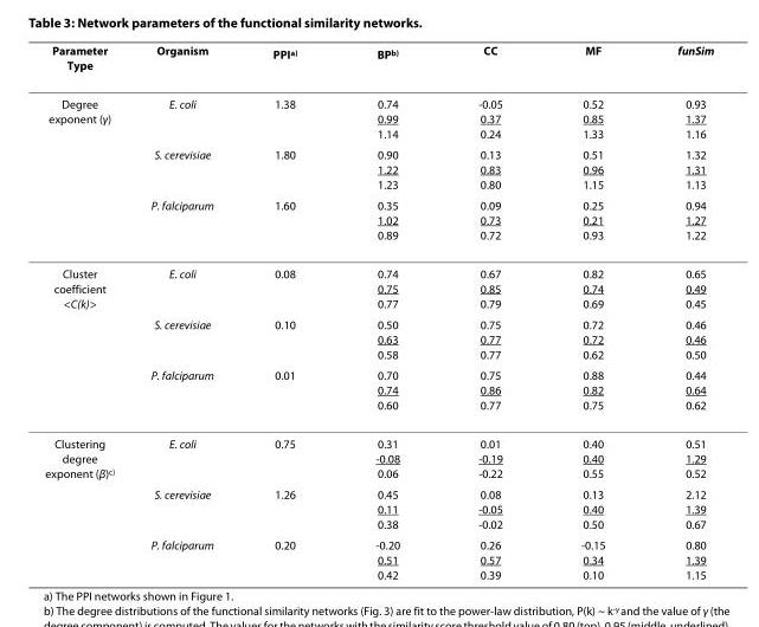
<table><thead><tr><td>Parameter Type</td><td>Organism</td><td>PPI<sup>a)</sup></td><td>BP<sup>b)</sup></td><td>CC</td><td>MF</td><td>funSim</td></tr></thead><tbody><tr><td rowspan="3">Degree exponent (γ)</td><td>E. coli</td><td>1.38</td><td>0.74 0.99 1.14</td><td>-0.05 0.37 0.24</td><td>0.52 0.85 1.33</td><td>0.93 1.37 1.16</td></tr><tr><td>S. cerevisiae</td><td>1.80</td><td>0.90 1.22 1.23</td><td>0.13 0.83 0.80</td><td>0.51 0.96 1.15</td><td>1.32 1.31 1.13</td></tr><tr><td>P. falciparum</td><td>1.60</td><td>0.35 1.02 0.89</td><td>0.09 0.73 0.72</td><td>0.25 0.21 0.93</td><td>0.94 1.27 1.22</td></tr><tr><td rowspan="3">Cluster coefficient &lt;C(k)&gt;</td><td>E. coli</td><td>0.08</td><td>0.74 0.75 0.77</td><td>0.67 0.85 0.79</td><td>0.82 0.74 0.69</td><td>0.65 0.49 0.45</td></tr><tr><td>S. cerevisiae</td><td>0.10</td><td>0.50 0.63 0.58</td><td>0.75 0.77 0.77</td><td>0.72 0.72 0.62</td><td>0.46 0.46 0.50</td></tr><tr><td>P. falciparum</td><td>0.01</td><td>0.70 0.74 0.60</td><td>0.75 0.86 0.77</td><td>0.88 0.82 0.75</td><td>0.44 0.64 0.62</td></tr><tr><td rowspan="3">Clustering degree exponent (β)<sup>c)</sup></td><td>E. coli</td><td>0.75</td><td>0.31 -0.08 0.06</td><td>0.01 -0.19 -0.22</td><td>0.40 0.40 0.55</td><td>0.51 1.29 0.52</td></tr><tr><td>S. cerevisiae</td><td>1.26</td><td>0.45 0.11 0.38</td><td>0.08 -0.05 -0.02</td><td>0.13 0.40 0.50</td><td>2.12 1.39 0.67</td></tr><tr><td>P. falciparum</td><td>0.20</td><td>-0.20 0.51 0.42</td><td>0.26 0.57 0.39</td><td>-0.15 0.34 0.10</td><td>0.80 1.39 1.15</td></tr></tbody></table>